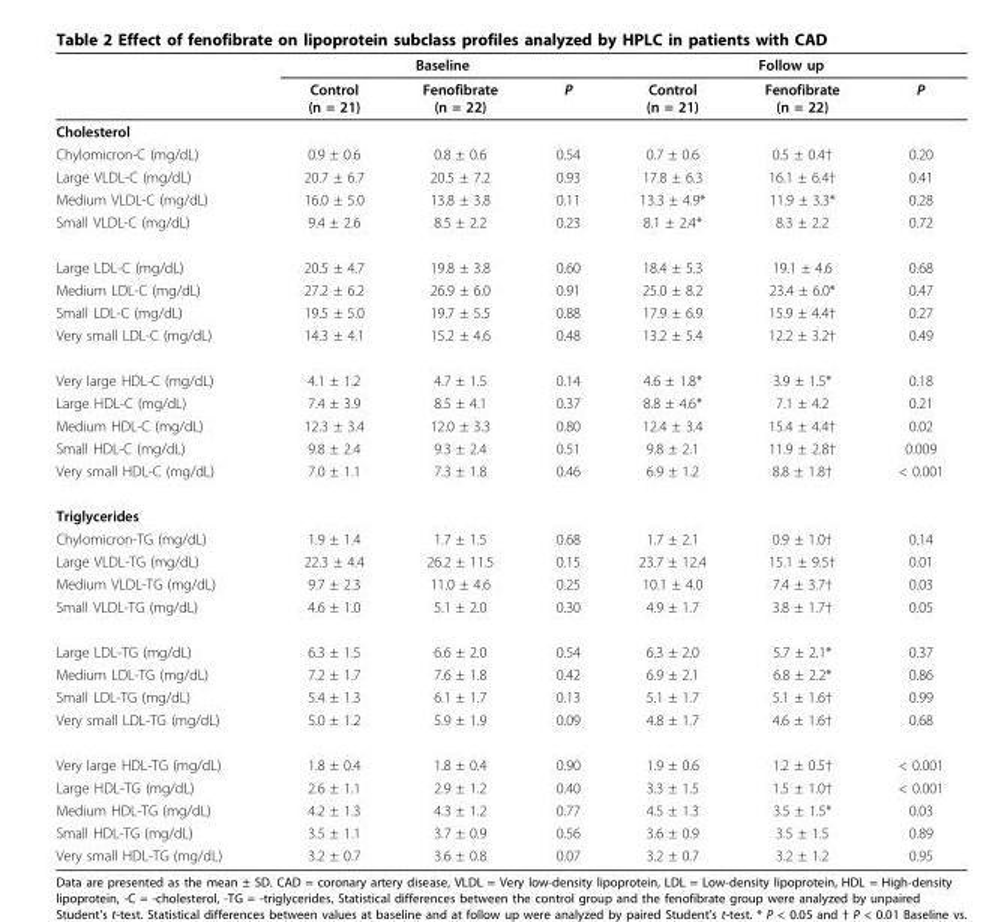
<table><thead><tr><td rowspan="2"></td><td colspan="3">Baseline</td><td colspan="3">Follow up</td></tr><tr><td>Control (n = 21)</td><td>Fenofibrate (n = 22)</td><td>P</td><td>Control (n = 21)</td><td>Fenofibrate (n = 22)</td><td>P</td></tr></thead><tbody><tr><td colspan="7">Cholesterol</td></tr><tr><td>Chylomicron-C (mg/dL)</td><td>0.9 ± 0.6</td><td>0.8 ± 0.6</td><td>0.54</td><td>0.7 ± 0.6</td><td>0.5 ± 0.4†</td><td>0.20</td></tr><tr><td>Large VLDL-C (mg/dL)</td><td>20.7 ± 6.7</td><td>20.5 ± 7.2</td><td>0.93</td><td>17.8 ± 6.3</td><td>16.1 ± 6.4†</td><td>0.41</td></tr><tr><td>Medium VLDL-C (mg/dL)</td><td>16.0 ± 5.0</td><td>13.8 ± 3.8</td><td>0.11</td><td>13.3 ± 4.9*</td><td>11.9 ± 3.3*</td><td>0.28</td></tr><tr><td>Small VLDL-C (mg/dL)</td><td>9.4 ± 2.6</td><td>8.5 ± 2.2</td><td>0.23</td><td>8.1 ± 2.4*</td><td>8.3 ± 2.2</td><td>0.72</td></tr><tr><td>Large LDL-C (mg/dL)</td><td>20.5 ± 4.7</td><td>19.8 ± 3.8</td><td>0.60</td><td>18.4 ± 5.3</td><td>19.1 ± 4.6</td><td>0.68</td></tr><tr><td>Medium LDL-C (mg/dL)</td><td>27.2 ± 6.2</td><td>26.9 ± 6.0</td><td>0.91</td><td>25.0 ± 8.2</td><td>23.4 ± 6.0*</td><td>0.47</td></tr><tr><td>Small LDL-C (mg/dL)</td><td>19.5 ± 5.0</td><td>19.7 ± 5.5</td><td>0.88</td><td>17.9 ± 6.9</td><td>15.9 ± 4.4†</td><td>0.27</td></tr><tr><td>Very small LDL-C (mg/dL)</td><td>14.3 ± 4.1</td><td>15.2 ± 4.6</td><td>0.48</td><td>13.2 ± 5.4</td><td>12.2 ± 3.2†</td><td>0.49</td></tr><tr><td>Very large HDL-C (mg/dL)</td><td>4.1 ± 1.2</td><td>4.7 ± 1.5</td><td>0.14</td><td>4.6 ± 1.8*</td><td>3.9 ± 1.5*</td><td>0.18</td></tr><tr><td>Large HDL-C (mg/dL)</td><td>7.4 ± 3.9</td><td>8.5 ± 4.1</td><td>0.37</td><td>8.8 ± 4.6*</td><td>7.1 ± 4.2</td><td>0.21</td></tr><tr><td>Medium HDL-C (mg/dL)</td><td>12.3 ± 3.4</td><td>12.0 ± 3.3</td><td>0.80</td><td>12.4 ± 3.4</td><td>15.4 ± 4.4†</td><td>0.02</td></tr><tr><td>Small HDL-C (mg/dL)</td><td>9.8 ± 2.4</td><td>9.3 ± 2.4</td><td>0.51</td><td>9.8 ± 2.1</td><td>11.9 ± 2.8†</td><td>0.009</td></tr><tr><td>Very small HDL-C (mg/dL)</td><td>7.0 ± 1.1</td><td>7.3 ± 1.8</td><td>0.46</td><td>6.9 ± 1.2</td><td>8.8 ± 1.8†</td><td>&lt; 0.001</td></tr><tr><td colspan="7">Triglycerides</td></tr><tr><td>Chylomicron-TG (mg/dL)</td><td>1.9 ± 1.4</td><td>1.7 ± 1.5</td><td>0.68</td><td>1.7 ± 2.1</td><td>0.9 ± 1.0†</td><td>0.14</td></tr><tr><td>Large VLDL-TG (mg/dL)</td><td>22.3 ± 4.4</td><td>26.2 ± 11.5</td><td>0.15</td><td>23.7 ± 12.4</td><td>15.1 ± 9.5†</td><td>0.01</td></tr><tr><td>Medium VLDL-TG (mg/dL)</td><td>9.7 ± 2.3</td><td>11.0 ± 4.6</td><td>0.25</td><td>10.1 ± 4.0</td><td>7.4 ± 3.7†</td><td>0.03</td></tr><tr><td>Small VLDL-TG (mg/dL)</td><td>4.6 ± 1.0</td><td>5.1 ± 2.0</td><td>0.30</td><td>4.9 ± 1.7</td><td>3.8 ± 1.7†</td><td>0.05</td></tr><tr><td>Large LDL-TG (mg/dL)</td><td>6.3 ± 1.5</td><td>6.6 ± 2.0</td><td>0.54</td><td>6.3 ± 2.0</td><td>5.7 ± 2.1*</td><td>0.37</td></tr><tr><td>Medium LDL-TG (mg/dL)</td><td>7.2 ± 1.7</td><td>7.6 ± 1.8</td><td>0.42</td><td>6.9 ± 2.1</td><td>6.8 ± 2.2*</td><td>0.86</td></tr><tr><td>Small LDL-TG (mg/dL)</td><td>5.4 ± 1.3</td><td>6.1 ± 1.7</td><td>0.13</td><td>5.1 ± 1.7</td><td>5.1 ± 1.6†</td><td>0.99</td></tr><tr><td>Very small LDL-TG (mg/dL)</td><td>5.0 ± 1.2</td><td>5.9 ± 1.9</td><td>0.09</td><td>4.8 ± 1.7</td><td>4.6 ± 1.6†</td><td>0.68</td></tr><tr><td>Very large HDL-TG (mg/dL)</td><td>1.8 ± 0.4</td><td>1.8 ± 0.4</td><td>0.90</td><td>1.9 ± 0.6</td><td>1.2 ± 0.5†</td><td>&lt; 0.001</td></tr><tr><td>Large HDL-TG (mg/dL)</td><td>2.6 ± 1.1</td><td>2.9 ± 1.2</td><td>0.40</td><td>3.3 ± 1.5</td><td>1.5 ± 1.0†</td><td>&lt; 0.001</td></tr><tr><td>Medium HDL-TG (mg/dL)</td><td>4.2 ± 1.3</td><td>4.3 ± 1.2</td><td>0.77</td><td>4.5 ± 1.3</td><td>3.5 ± 1.5*</td><td>0.03</td></tr><tr><td>Small HDL-TG (mg/dL)</td><td>3.5 ± 1.1</td><td>3.7 ± 0.9</td><td>0.56</td><td>3.6 ± 0.9</td><td>3.5 ± 1.5</td><td>0.89</td></tr><tr><td>Very small HDL-TG (mg/dL)</td><td>3.2 ± 0.7</td><td>3.6 ± 0.8</td><td>0.07</td><td>3.2 ± 0.7</td><td>3.2 ± 1.2</td><td>0.95</td></tr></tbody></table>